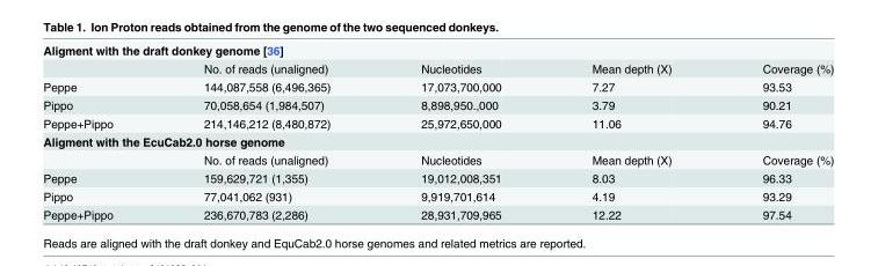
<table><tbody><tr><td colspan="5">Aligment with the draft donkey genome [36]</td></tr><tr><td></td><td>No. of reads (unaligned)</td><td>Nucleotides</td><td>Mean depth (X)</td><td>Coverage (%)</td></tr><tr><td>Peppe</td><td>144,087,558 (6,496,365)</td><td>17,073,700,000</td><td>7.27</td><td>93.53</td></tr><tr><td>Pippo</td><td>70,058,654 (1,984,507)</td><td>8,898,950.,000</td><td>3.79</td><td>90.21</td></tr><tr><td>Peppe+Pippo</td><td>214,146,212 (8,480,872)</td><td>25,972,650,000</td><td>11.06</td><td>94.76</td></tr><tr><td colspan="5">Aligment with the EcuCab2.0 horse genome</td></tr><tr><td></td><td>No. of reads (unaligned)</td><td>Nucleotides</td><td>Mean depth (X)</td><td>Coverage (%)</td></tr><tr><td>Peppe</td><td>159,629,721 (1,355)</td><td>19,012,008,351</td><td>8.03</td><td>96.33</td></tr><tr><td>Pippo</td><td>77,041,062 (931)</td><td>9,919,701,614</td><td>4.19</td><td>93.29</td></tr><tr><td>Peppe+Pippo</td><td>236,670,783 (2,286)</td><td>28,931,709,965</td><td>12.22</td><td>97.54</td></tr></tbody></table>